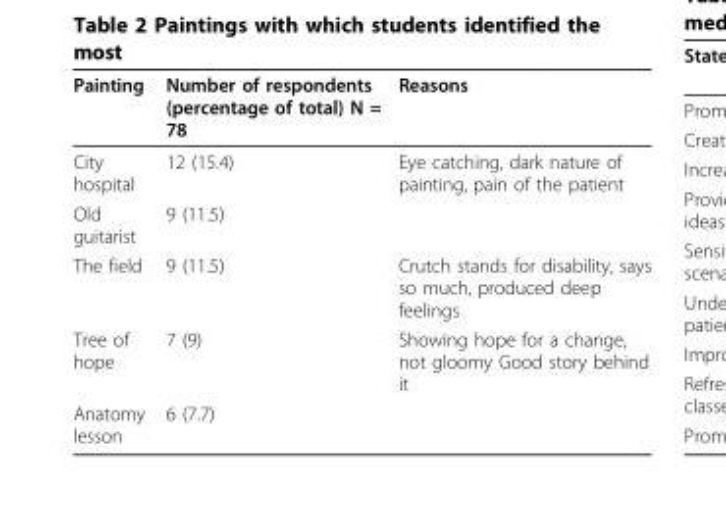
<table><thead><tr><td>Painting</td><td>Number of respondents (percentage of total) N = 78</td><td>Reasons</td></tr></thead><tbody><tr><td>City hospital</td><td>12 (15.4)</td><td>Eye catching, dark nature of painting, pain of the patient</td></tr><tr><td>Old guitarist</td><td>9 (11.5)</td><td></td></tr><tr><td>The field</td><td>9 (11.5)</td><td>Crutch stands for disability, says so much, produced deep feelings</td></tr><tr><td>Tree of hope</td><td>7 (9)</td><td>Showing hope for a change, not gloomy Good story behind it</td></tr><tr><td>Anatomy lesson</td><td>6 (7.7)</td><td></td></tr></tbody></table>